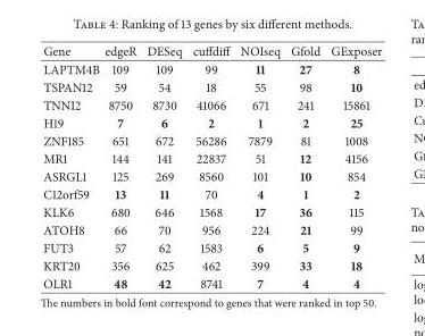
<table><thead><tr><td>Gene</td><td>edgeR</td><td>DESeq</td><td>cuffdiff</td><td>NOIseq</td><td>Gfold</td><td>GExposer</td></tr></thead><tbody><tr><td>LAPTM4B</td><td>109</td><td>109</td><td>99</td><td>11</td><td>27</td><td>8</td></tr><tr><td>TSPAN12</td><td>59</td><td>54</td><td>18</td><td>55</td><td>98</td><td>10</td></tr><tr><td>TNNI2</td><td>8750</td><td>8730</td><td>41066</td><td>671</td><td>241</td><td>15861</td></tr><tr><td>H19</td><td>7</td><td>6</td><td>2</td><td>1</td><td>2</td><td>25</td></tr><tr><td>ZNF185</td><td>651</td><td>672</td><td>56286</td><td>7879</td><td>81</td><td>1008</td></tr><tr><td>MR1</td><td>144</td><td>141</td><td>22837</td><td>51</td><td>12</td><td>4156</td></tr><tr><td>ASRGL1</td><td>125</td><td>269</td><td>8560</td><td>101</td><td>10</td><td>854</td></tr><tr><td>C12orf59</td><td>13</td><td>11</td><td>70</td><td>4</td><td>1</td><td>2</td></tr><tr><td>KLK6</td><td>680</td><td>646</td><td>1568</td><td>17</td><td>36</td><td>115</td></tr><tr><td>ATOH8</td><td>66</td><td>70</td><td>956</td><td>224</td><td>21</td><td>99</td></tr><tr><td>FUT3</td><td>57</td><td>62</td><td>1583</td><td>6</td><td>5</td><td>9</td></tr><tr><td>KRT20</td><td>356</td><td>625</td><td>462</td><td>399</td><td>33</td><td>18</td></tr><tr><td>OLR1</td><td>48</td><td>42</td><td>8741</td><td>7</td><td>4</td><td>4</td></tr></tbody></table>